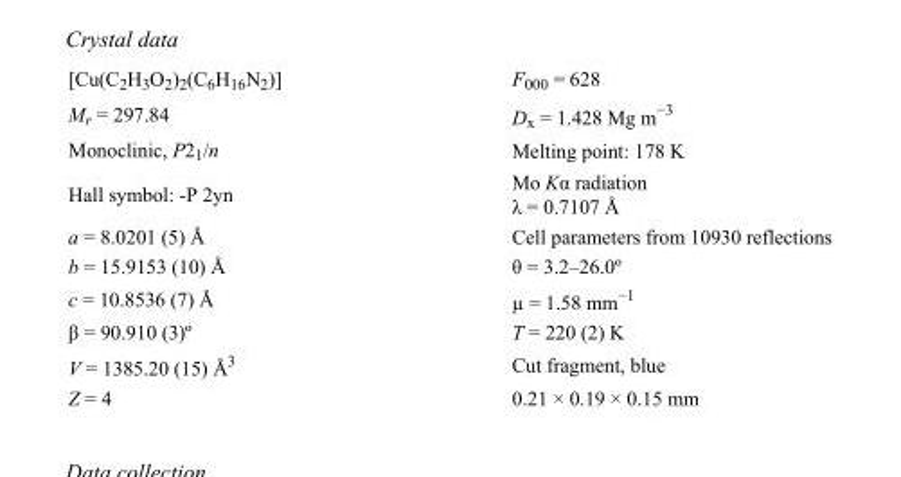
<table><tbody><tr><td>[Cu(C<sub>2</sub>H<sub>3</sub>O<sub>2</sub>)<sub>2</sub>(C<sub>6</sub>H<sub>16</sub>N<sub>2</sub>)]</td><td>F<sub>000</sub> = 628</td></tr><tr><td>M<sub>r</sub> = 297.84</td><td>D<sub>x</sub> = 1.428 Mg m<sup>−3</sup></td></tr><tr><td>Monoclinic, P2<sub>1</sub>/n</td><td>Melting point: 178 K</td></tr><tr><td>Hall symbol: -P 2yn</td><td>Mo Kα radiation λ = 0.7107 Å</td></tr><tr><td>a = 8.0201 (5) Å</td><td>Cell parameters from 10930 reflections</td></tr><tr><td>b = 15.9153 (10) Å</td><td>θ = 3.2–26.0º</td></tr><tr><td>c = 10.8536 (7) Å</td><td>µ = 1.58 mm<sup>−1</sup></td></tr><tr><td>β = 90.910 (3)º</td><td>T = 220 (2) K</td></tr><tr><td>V = 1385.20 (15) Å<sup>3</sup></td><td>Cut fragment, blue</td></tr><tr><td>Z = 4</td><td>0.21 × 0.19 × 0.15 mm</td></tr></tbody></table>